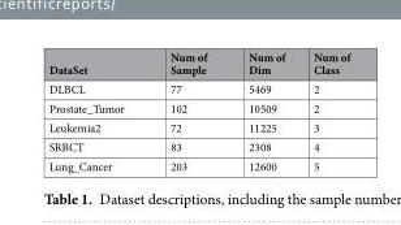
<table><thead><tr><td>DataSet</td><td>Num of Sample</td><td>Num of Dim</td><td>Num of Class</td></tr></thead><tbody><tr><td>DLBCL</td><td>77</td><td>5469</td><td>2</td></tr><tr><td>Prostate_Tumor</td><td>102</td><td>10509</td><td>2</td></tr><tr><td>Leukemia2</td><td>72</td><td>11225</td><td>3</td></tr><tr><td>SRBCT</td><td>83</td><td>2308</td><td>4</td></tr><tr><td>Lung_Cancer</td><td>203</td><td>12600</td><td>5</td></tr></tbody></table>